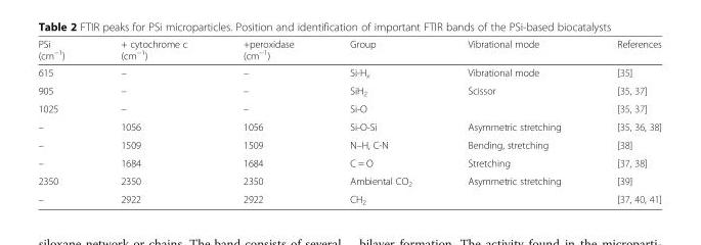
<table><thead><tr><td>PSi (cm<sup>−1</sup>)</td><td>+ cytochrome c (cm<sup>−1</sup>)</td><td>+peroxidase (cm<sup>−1</sup>)</td><td>Group</td><td>Vibrational mode</td><td>References</td></tr></thead><tbody><tr><td>615</td><td>–</td><td>–</td><td>Si-H<sub>x</sub></td><td>Vibrational mode</td><td>[35]</td></tr><tr><td>905</td><td>–</td><td>–</td><td>SiH<sub>2</sub></td><td>Scissor</td><td>[35, 37]</td></tr><tr><td>1025</td><td>–</td><td>–</td><td>Si-O</td><td></td><td>[35, 37]</td></tr><tr><td>–</td><td>1056</td><td>1056</td><td>Si-O-Si</td><td>Asymmetric stretching</td><td>[35, 36, 38]</td></tr><tr><td>–</td><td>1509</td><td>1509</td><td>N–H, C-N</td><td>Bending, stretching</td><td>[38]</td></tr><tr><td>–</td><td>1684</td><td>1684</td><td>C = O</td><td>Stretching</td><td>[37, 38]</td></tr><tr><td>2350</td><td>2350</td><td>2350</td><td>Ambiental CO<sub>2</sub></td><td>Asymmetric stretching</td><td>[39]</td></tr><tr><td>–</td><td>2922</td><td>2922</td><td>CH<sub>2</sub></td><td></td><td>[37, 40, 41]</td></tr></tbody></table>